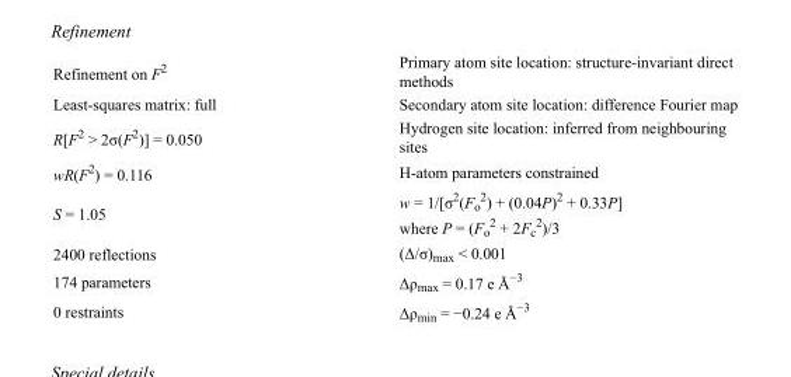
<table><tbody><tr><td>Refinement on F<sup>2</sup></td><td>Primary atom site location: structure-invariant direct methods</td></tr><tr><td>Least-squares matrix: full</td><td>Secondary atom site location: difference Fourier map</td></tr><tr><td>R[F<sup>2</sup> &gt; 2σ(F<sup>2</sup>)] = 0.050</td><td>Hydrogen site location: inferred from neighbouring sites</td></tr><tr><td>wR(F<sup>2</sup>) = 0.116</td><td>H-atom parameters constrained</td></tr><tr><td>S = 1.05</td><td>w = 1/[σ<sup>2</sup>(F<sub>o</sub> <sup>2</sup>) + (0.04P)<sup>2</sup> + 0.33P] where P = (F<sub>o</sub> <sup>2</sup> + 2F<sub>c</sub> <sup>2</sup>)/3</td></tr><tr><td>2400 reflections</td><td>(Δ/σ)<sub>max</sub> &lt; 0.001</td></tr><tr><td>174 parameters</td><td>Δρ<sub>max</sub> = 0.17 e Å<sup>−3</sup></td></tr><tr><td>0 restraints</td><td>Δρ<sub>min</sub> = −0.24 e Å<sup>−3</sup></td></tr></tbody></table>